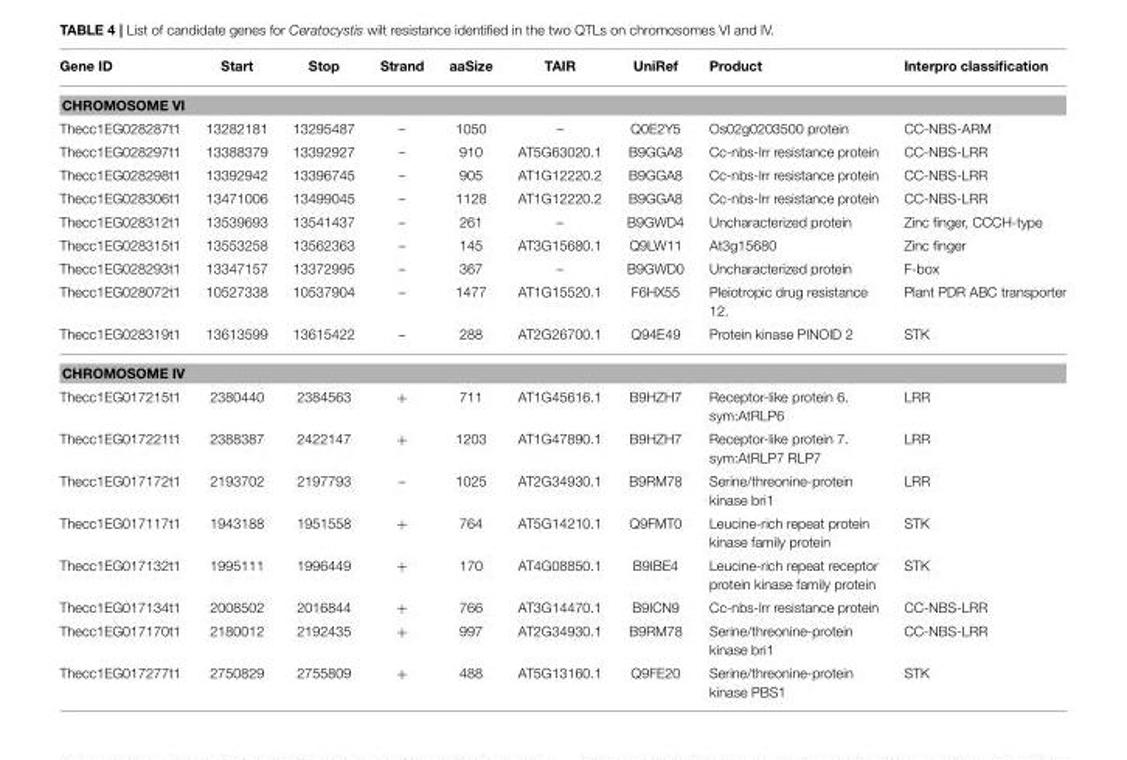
<table><thead><tr><td>Gene ID</td><td>Start</td><td>Stop</td><td>Strand</td><td>aaSize</td><td>TAIR</td><td>UniRef</td><td>Product</td><td>Interpro classification</td></tr></thead><tbody><tr><td colspan="9">CHROMOSOME VI</td></tr><tr><td>Thecc1EG028287t1</td><td>13282181</td><td>13295487</td><td>–</td><td>1050</td><td>–</td><td>Q0E2Y5</td><td>Os02g0203500 protein</td><td>CC-NBS-ARM</td></tr><tr><td>Thecc1EG028297t1</td><td>13388379</td><td>13392927</td><td>–</td><td>910</td><td>AT5G63020.1</td><td>B9GGA8</td><td>Cc-nbs-lrr resistance protein</td><td>CC-NBS-LRR</td></tr><tr><td>Thecc1EG028298t1</td><td>13392942</td><td>13396745</td><td>–</td><td>905</td><td>AT1G12220.2</td><td>B9GGA8</td><td>Cc-nbs-lrr resistance protein</td><td>CC-NBS-LRR</td></tr><tr><td>Thecc1EG028306t1</td><td>13471006</td><td>13499045</td><td>–</td><td>1128</td><td>AT1G12220.2</td><td>B9GGA8</td><td>Cc-nbs-lrr resistance protein</td><td>CC-NBS-LRR</td></tr><tr><td>Thecc1EG028312t1</td><td>13539693</td><td>13541437</td><td>–</td><td>261</td><td>–</td><td>B9GWD4</td><td>Uncharacterized protein</td><td>Zinc finger, CCCH-type</td></tr><tr><td>Thecc1EG028315t1</td><td>13553258</td><td>13562363</td><td>–</td><td>145</td><td>AT3G15680.1</td><td>Q9LW11</td><td>At3g15680</td><td>Zinc finger</td></tr><tr><td>Thecc1EG028293t1</td><td>13347157</td><td>13372995</td><td>–</td><td>367</td><td>–</td><td>B9GWD0</td><td>Uncharacterized protein</td><td>F-box</td></tr><tr><td>Thecc1EG028072t1</td><td>10527338</td><td>10537904</td><td>–</td><td>1477</td><td>AT1G15520.1</td><td>F6HX55</td><td>Pleiotropic drug resistance 12.</td><td>Plant PDR ABC transporter</td></tr><tr><td>Thecc1EG028319t1</td><td>13613599</td><td>13615422</td><td>–</td><td>288</td><td>AT2G26700.1</td><td>Q94E49</td><td>Protein kinase PINOID 2</td><td>STK</td></tr><tr><td colspan="9">CHROMOSOME IV</td></tr><tr><td>Thecc1EG017215t1</td><td>2380440</td><td>2384563</td><td>+</td><td>711</td><td>AT1G45616.1</td><td>B9HZH7</td><td>Receptor-like protein 6. sym:AtRLP6</td><td>LRR</td></tr><tr><td>Thecc1EG017221t1</td><td>2388387</td><td>2422147</td><td>+</td><td>1203</td><td>AT1G47890.1</td><td>B9HZH7</td><td>Receptor-like protein 7. sym:AtRLP7 RLP7</td><td>LRR</td></tr><tr><td>Thecc1EG017172t1</td><td>2193702</td><td>2197793</td><td>–</td><td>1025</td><td>AT2G34930.1</td><td>B9RM78</td><td>Serine/threonine-protein kinase bri1</td><td>LRR</td></tr><tr><td>Thecc1EG017117t1</td><td>1943188</td><td>1951558</td><td>+</td><td>764</td><td>AT5G14210.1</td><td>Q9FMT0</td><td>Leucine-rich repeat protein kinase family protein</td><td>STK</td></tr><tr><td>Thecc1EG017132t1</td><td>1995111</td><td>1996449</td><td>+</td><td>170</td><td>AT4G08850.1</td><td>B9IBE4</td><td>Leucine-rich repeat receptor protein kinase family protein</td><td>STK</td></tr><tr><td>Thecc1EG017134t1</td><td>2008502</td><td>2016844</td><td>+</td><td>766</td><td>AT3G14470.1</td><td>B9ICN9</td><td>Cc-nbs-lrr resistance protein</td><td>CC-NBS-LRR</td></tr><tr><td>Thecc1EG017170t1</td><td>2180012</td><td>2192435</td><td>+</td><td>997</td><td>AT2G34930.1</td><td>B9RM78</td><td>Serine/threonine-protein kinase bri1</td><td>CC-NBS-LRR</td></tr><tr><td>Thecc1EG017277t1</td><td>2750829</td><td>2755809</td><td>+</td><td>488</td><td>AT5G13160.1</td><td>Q9FE20</td><td>Serine/threonine-protein kinase PBS1</td><td>STK</td></tr></tbody></table>